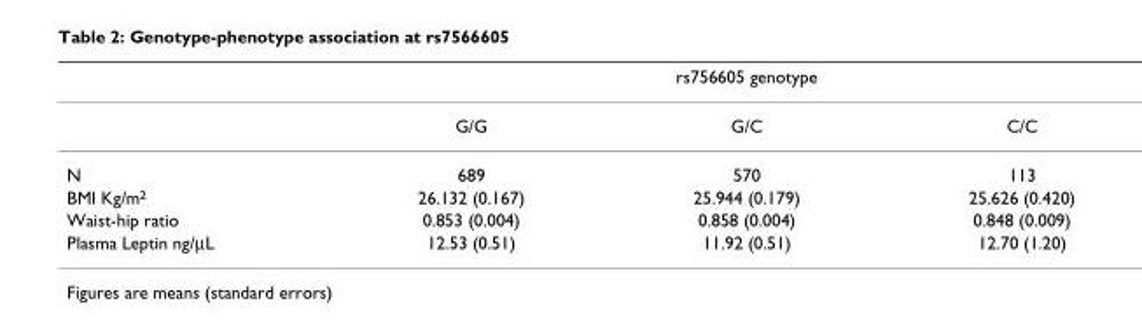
<table><thead><tr><td rowspan="2"></td><td colspan="3">rs756605 genotype</td></tr><tr><td>G/G</td><td>G/C</td><td>C/C</td></tr></thead><tbody><tr><td>N</td><td>689</td><td>570</td><td>113</td></tr><tr><td>BMI Kg/m<sup>2</sup></td><td>26.132 (0.167)</td><td>25.944 (0.179)</td><td>25.626 (0.420)</td></tr><tr><td>Waist-hip ratio</td><td>0.853 (0.004)</td><td>0.858 (0.004)</td><td>0.848 (0.009)</td></tr><tr><td>Plasma Leptin ng/μL</td><td>12.53 (0.51)</td><td>11.92 (0.51)</td><td>12.70 (1.20)</td></tr></tbody></table>